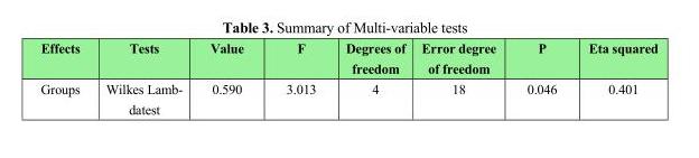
<table><thead><tr><td>Effects</td><td>Tests</td><td>Value</td><td>F</td><td>Degrees of freedom</td><td>Error degree of freedom</td><td>P</td><td>Eta squared</td></tr></thead><tbody><tr><td>Groups</td><td>Wilkes Lamb- datest</td><td>0.590</td><td>3.013</td><td>4</td><td>18</td><td>0.046</td><td>0.401</td></tr></tbody></table>